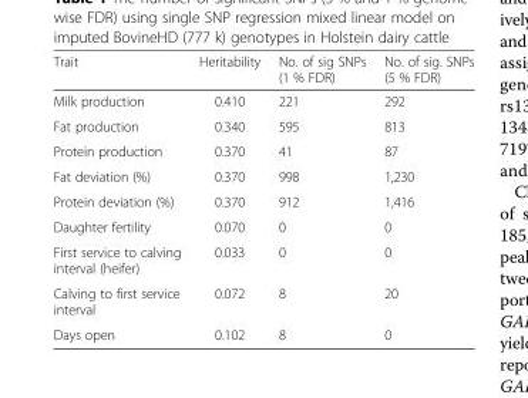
<table><thead><tr><td>Trait</td><td>Heritability</td><td>No. of sig SNPs (1 % FDR)</td><td>No. of sig. SNPs (5 % FDR)</td></tr></thead><tbody><tr><td>Milk production</td><td>0.410</td><td>221</td><td>292</td></tr><tr><td>Fat production</td><td>0.340</td><td>595</td><td>813</td></tr><tr><td>Protein production</td><td>0.370</td><td>41</td><td>87</td></tr><tr><td>Fat deviation (%)</td><td>0.370</td><td>998</td><td>1,230</td></tr><tr><td>Protein deviation (%)</td><td>0.370</td><td>912</td><td>1,416</td></tr><tr><td>Daughter fertility</td><td>0.070</td><td>0</td><td>0</td></tr><tr><td>First service to calving interval (heifer)</td><td>0.033</td><td>0</td><td>0</td></tr><tr><td>Calving to first service interval</td><td>0.072</td><td>8</td><td>20</td></tr><tr><td>Days open</td><td>0.102</td><td>8</td><td>0</td></tr></tbody></table>